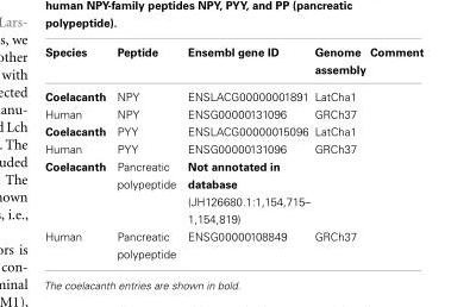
<table><thead><tr><td>Species</td><td>Peptide</td><td>Ensembl gene ID</td><td>Genome assembly</td><td>Comment</td></tr></thead><tbody><tr><td>Coelacanth</td><td>NPY</td><td>ENSLACG00000001891</td><td>LatCha1</td><td></td></tr><tr><td>Human</td><td>NPY</td><td>ENSG00000131096</td><td>GRCh37</td><td></td></tr><tr><td>Coelacanth</td><td>PYY</td><td>ENSLACG00000015096</td><td>LatCha1</td><td></td></tr><tr><td>Human</td><td>PYY</td><td>ENSG00000131096</td><td>GRCh37</td><td></td></tr><tr><td>Coelacanth</td><td>Pancreatic polypeptide</td><td>Not annotated in database (JH126680.1:1,154,715– 1,154,819)</td><td></td><td></td></tr><tr><td>Human</td><td>Pancreatic polypeptide</td><td>ENSG00000108849</td><td>GRCh37</td><td></td></tr></tbody></table>